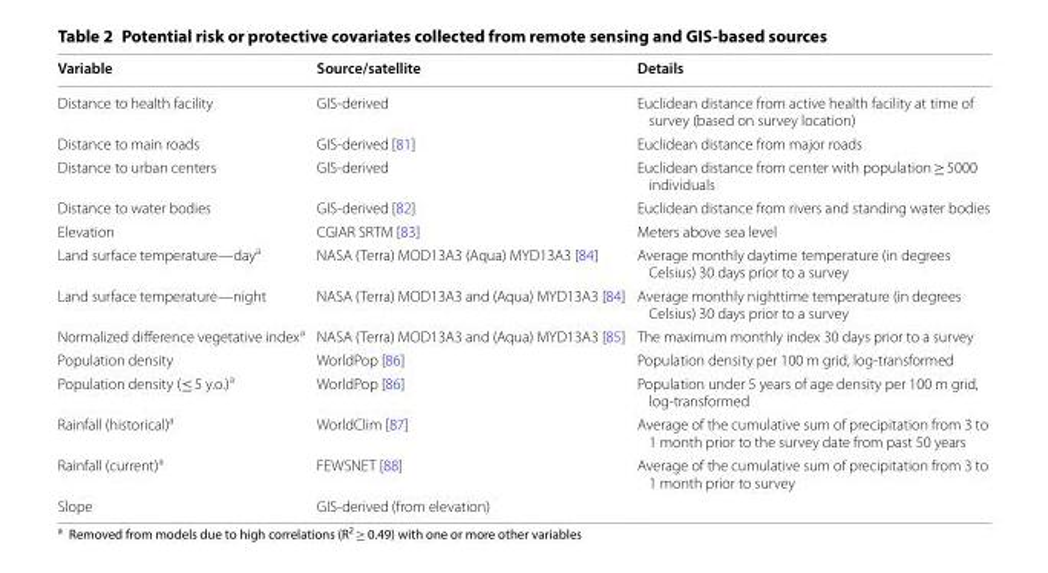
<table><thead><tr><td>Variable</td><td>Source/satellite</td><td>Details</td></tr></thead><tbody><tr><td>Distance to health facility</td><td>GIS-derived</td><td>Euclidean distance from active health facility at time of survey (based on survey location)</td></tr><tr><td>Distance to main roads</td><td>GIS-derived [81]</td><td>Euclidean distance from major roads</td></tr><tr><td>Distance to urban centers</td><td>GIS-derived</td><td>Euclidean distance from center with population ≥ 5000 individuals</td></tr><tr><td>Distance to water bodies</td><td>GIS-derived [82]</td><td>Euclidean distance from rivers and standing water bodies</td></tr><tr><td>Elevation</td><td>CGIAR SRTM [83]</td><td>Meters above sea level</td></tr><tr><td>Land surface temperature—day<sup>a</sup></td><td>NASA (Terra) MOD13A3 (Aqua) MYD13A3 [84]</td><td>Average monthly daytime temperature (in degrees Celsius) 30 days prior to a survey</td></tr><tr><td>Land surface temperature—night</td><td>NASA (Terra) MOD13A3 and (Aqua) MYD13A3 [84]</td><td>Average monthly nighttime temperature (in degrees Celsius) 30 days prior to a survey</td></tr><tr><td>Normalized difference vegetative index<sup>a</sup></td><td>NASA (Terra) MOD13A3 and (Aqua) MYD13A3 [85]</td><td>The maximum monthly index 30 days prior to a survey</td></tr><tr><td>Population density</td><td>WorldPop [86]</td><td>Population density per 100 m grid, log-transformed</td></tr><tr><td>Population density (≤ 5 y.o.)<sup>a</sup></td><td>WorldPop [86]</td><td>Population under 5 years of age density per 100 m grid, log-transformed</td></tr><tr><td>Rainfall (historical)<sup>a</sup></td><td>WorldClim [87]</td><td>Average of the cumulative sum of precipitation from 3 to 1 month prior to the survey date from past 50 years</td></tr><tr><td>Rainfall (current)<sup>a</sup></td><td>FEWSNET [88]</td><td>Average of the cumulative sum of precipitation from 3 to 1 month prior to survey</td></tr><tr><td>Slope</td><td>GIS-derived (from elevation)</td><td></td></tr></tbody></table>